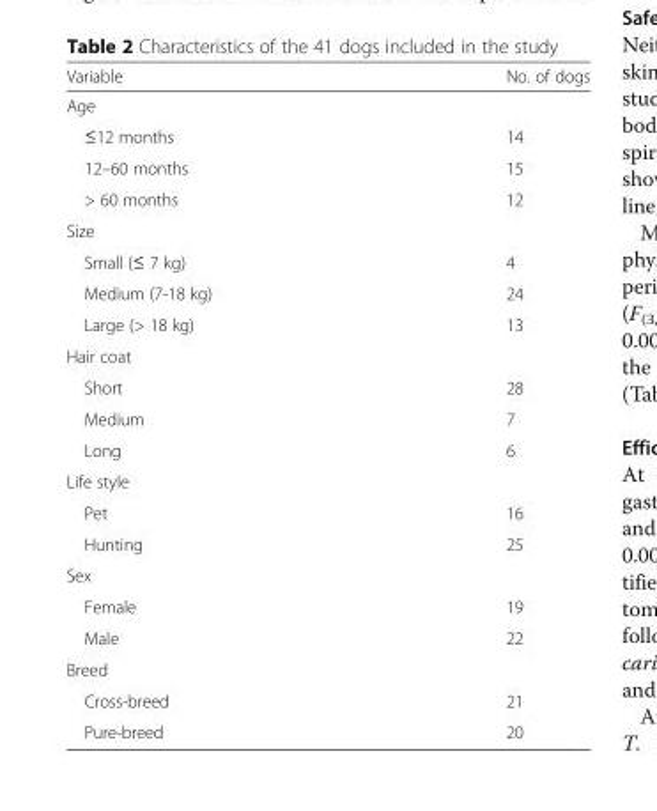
<table><thead><tr><td>Variable</td><td>No. of dogs</td></tr></thead><tbody><tr><td colspan="2">Age</td></tr><tr><td>≤12 months</td><td>14</td></tr><tr><td>12–60 months</td><td>15</td></tr><tr><td>&gt; 60 months</td><td>12</td></tr><tr><td colspan="2">Size</td></tr><tr><td>Small (≤ 7 kg)</td><td>4</td></tr><tr><td>Medium (7-18 kg)</td><td>24</td></tr><tr><td>Large (&gt; 18 kg)</td><td>13</td></tr><tr><td colspan="2">Hair coat</td></tr><tr><td>Short</td><td>28</td></tr><tr><td>Medium</td><td>7</td></tr><tr><td>Long</td><td>6</td></tr><tr><td colspan="2">Life style</td></tr><tr><td>Pet</td><td>16</td></tr><tr><td>Hunting</td><td>25</td></tr><tr><td colspan="2">Sex</td></tr><tr><td>Female</td><td>19</td></tr><tr><td>Male</td><td>22</td></tr><tr><td colspan="2">Breed</td></tr><tr><td>Cross-breed</td><td>21</td></tr><tr><td>Pure-breed</td><td>20</td></tr></tbody></table>